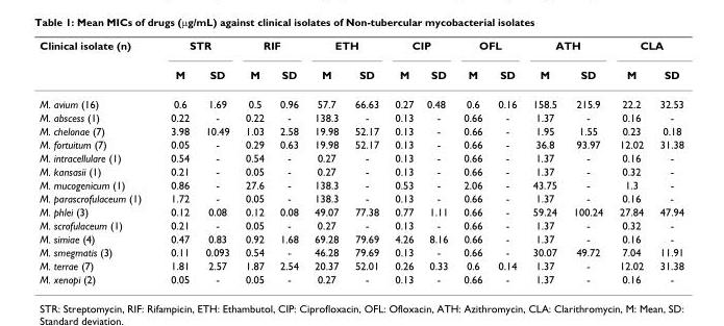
<table><thead><tr><td rowspan="2">Clinical isolate (n)</td><td colspan="2">STR</td><td colspan="2">RIF</td><td colspan="2">ETH</td><td colspan="2">CIP</td><td colspan="2">OFL</td><td colspan="2">ATH</td><td colspan="2">CLA</td></tr><tr><td>M</td><td>SD</td><td>M</td><td>SD</td><td>M</td><td>SD</td><td>M</td><td>SD</td><td>M</td><td>SD</td><td>M</td><td>SD</td><td>M</td><td>SD</td></tr></thead><tbody><tr><td>M. avium (16)</td><td>0.6</td><td>1.69</td><td>0.5</td><td>0.96</td><td>57.7</td><td>66.63</td><td>0.27</td><td>0.48</td><td>0.6</td><td>0.16</td><td>158.5</td><td>215.9</td><td>22.2</td><td>32.53</td></tr><tr><td>M. abscess (1)</td><td>0.22</td><td>-</td><td>0.22</td><td>-</td><td>138.3</td><td>-</td><td>0.13</td><td>-</td><td>0.66</td><td>-</td><td>1.37</td><td>-</td><td>0.16</td><td>-</td></tr><tr><td>M. chelonae (7)</td><td>3.98</td><td>10.49</td><td>1.03</td><td>2.58</td><td>19.98</td><td>52.17</td><td>0.13</td><td>-</td><td>0.66</td><td>-</td><td>1.95</td><td>1.55</td><td>0.23</td><td>0.18</td></tr><tr><td>M. fortuitum (7)</td><td>0.05</td><td>-</td><td>0.29</td><td>0.63</td><td>19.98</td><td>52.17</td><td>0.13</td><td>-</td><td>0.66</td><td>-</td><td>36.8</td><td>93.97</td><td>12.02</td><td>31.38</td></tr><tr><td>M. intracellulare (1)</td><td>0.54</td><td>-</td><td>0.54</td><td>-</td><td>0.27</td><td>-</td><td>0.13</td><td>-</td><td>0.66</td><td>-</td><td>1.37</td><td>-</td><td>0.16</td><td>-</td></tr><tr><td>M. kansasii (1)</td><td>0.21</td><td>-</td><td>0.05</td><td>-</td><td>0.27</td><td>-</td><td>0.13</td><td>-</td><td>0.66</td><td>-</td><td>1.37</td><td>-</td><td>0.32</td><td>-</td></tr><tr><td>M. mucogenicum (1)</td><td>0.86</td><td>-</td><td>27.6</td><td>-</td><td>138.3</td><td>-</td><td>0.53</td><td>-</td><td>2.06</td><td>-</td><td>43.75</td><td>-</td><td>1.3</td><td>-</td></tr><tr><td>M. parascrofulaceum (1)</td><td>1.72</td><td>-</td><td>0.05</td><td>-</td><td>138.3</td><td>-</td><td>0.13</td><td>-</td><td>0.66</td><td>-</td><td>1.37</td><td>-</td><td>0.16</td><td>-</td></tr><tr><td>M. phlei (3)</td><td>0.12</td><td>0.08</td><td>0.12</td><td>0.08</td><td>49.07</td><td>77.38</td><td>0.77</td><td>1.11</td><td>0.66</td><td>-</td><td>59.24</td><td>100.24</td><td>27.84</td><td>47.94</td></tr><tr><td>M. scrofulaceum (1)</td><td>0.21</td><td>-</td><td>0.05</td><td>-</td><td>0.27</td><td>-</td><td>0.13</td><td>-</td><td>0.66</td><td>-</td><td>1.37</td><td>-</td><td>0.32</td><td>-</td></tr><tr><td>M. simiae (4)</td><td>0.47</td><td>0.83</td><td>0.92</td><td>1.68</td><td>69.28</td><td>79.69</td><td>4.26</td><td>8.16</td><td>0.66</td><td>-</td><td>1.37</td><td>-</td><td>0.16</td><td>-</td></tr><tr><td>M. smegmatis (3)</td><td>0.11</td><td>0.093</td><td>0.54</td><td>-</td><td>46.28</td><td>79.69</td><td>0.13</td><td>-</td><td>0.66</td><td>-</td><td>30.07</td><td>49.72</td><td>7.04</td><td>11.91</td></tr><tr><td>M. terrae (7)</td><td>1.81</td><td>2.57</td><td>1.87</td><td>2.54</td><td>20.37</td><td>52.01</td><td>0.26</td><td>0.33</td><td>0.6</td><td>0.14</td><td>1.37</td><td>-</td><td>12.02</td><td>31.38</td></tr><tr><td>M. xenopi (2)</td><td>0.05</td><td>-</td><td>0.05</td><td>-</td><td>0.27</td><td>-</td><td>0.13</td><td>-</td><td>0.66</td><td>-</td><td>1.37</td><td>-</td><td>0.16</td><td>-</td></tr></tbody></table>